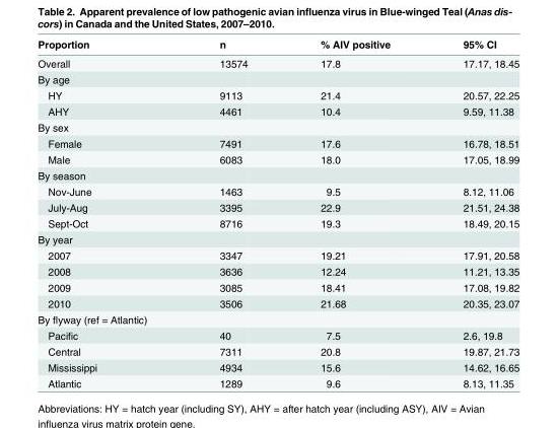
<table><thead><tr><td>Proportion</td><td>n</td><td>% AIV positive</td><td>95% CI</td></tr></thead><tbody><tr><td>Overall</td><td>13574</td><td>17.8</td><td>17.17, 18.45</td></tr><tr><td colspan="4">By age</td></tr><tr><td>HY</td><td>9113</td><td>21.4</td><td>20.57, 22.25</td></tr><tr><td>AHY</td><td>4461</td><td>10.4</td><td>9.59, 11.38</td></tr><tr><td colspan="4">By sex</td></tr><tr><td>Female</td><td>7491</td><td>17.6</td><td>16.78, 18.51</td></tr><tr><td>Male</td><td>6083</td><td>18.0</td><td>17.05, 18.99</td></tr><tr><td colspan="4">By season</td></tr><tr><td>Nov-June</td><td>1463</td><td>9.5</td><td>8.12, 11.06</td></tr><tr><td>July-Aug</td><td>3395</td><td>22.9</td><td>21.51, 24.38</td></tr><tr><td>Sept-Oct</td><td>8716</td><td>19.3</td><td>18.49, 20.15</td></tr><tr><td colspan="4">By year</td></tr><tr><td>2007</td><td>3347</td><td>19.21</td><td>17.91, 20.58</td></tr><tr><td>2008</td><td>3636</td><td>12.24</td><td>11.21, 13.35</td></tr><tr><td>2009</td><td>3085</td><td>18.41</td><td>17.08, 19.82</td></tr><tr><td>2010</td><td>3506</td><td>21.68</td><td>20.35, 23.07</td></tr><tr><td colspan="4">By flyway (ref = Atlantic)</td></tr><tr><td>Pacific</td><td>40</td><td>7.5</td><td>2.6, 19.8</td></tr><tr><td>Central</td><td>7311</td><td>20.8</td><td>19.87, 21.73</td></tr><tr><td>Mississippi</td><td>4934</td><td>15.6</td><td>14.62, 16.65</td></tr><tr><td>Atlantic</td><td>1289</td><td>9.6</td><td>8.13, 11.35</td></tr></tbody></table>